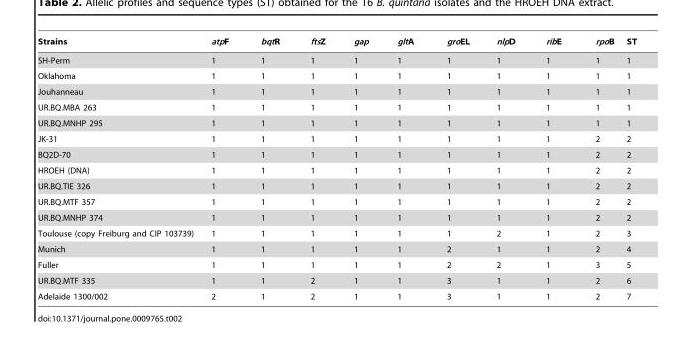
<table><thead><tr><td>Strains</td><td>atpF</td><td>bqtR</td><td>ftsZ</td><td>gap</td><td>gltA</td><td>groEL</td><td>nlpD</td><td>ribE</td><td>rpoB</td><td>ST</td></tr></thead><tbody><tr><td>SH-Perm</td><td>1</td><td>1</td><td>1</td><td>1</td><td>1</td><td>1</td><td>1</td><td>1</td><td>1</td><td>1</td></tr><tr><td>Oklahoma</td><td>1</td><td>1</td><td>1</td><td>1</td><td>1</td><td>1</td><td>1</td><td>1</td><td>1</td><td>1</td></tr><tr><td>Jouhanneau</td><td>1</td><td>1</td><td>1</td><td>1</td><td>1</td><td>1</td><td>1</td><td>1</td><td>1</td><td>1</td></tr><tr><td>UR.BQ.MBA 263</td><td>1</td><td>1</td><td>1</td><td>1</td><td>1</td><td>1</td><td>1</td><td>1</td><td>1</td><td>1</td></tr><tr><td>UR.BQ.MNHP 295</td><td>1</td><td>1</td><td>1</td><td>1</td><td>1</td><td>1</td><td>1</td><td>1</td><td>1</td><td>1</td></tr><tr><td>JK-31</td><td>1</td><td>1</td><td>1</td><td>1</td><td>1</td><td>1</td><td>1</td><td>1</td><td>2</td><td>2</td></tr><tr><td>BQ2D-70</td><td>1</td><td>1</td><td>1</td><td>1</td><td>1</td><td>1</td><td>1</td><td>1</td><td>2</td><td>2</td></tr><tr><td>HROEH (DNA)</td><td>1</td><td>1</td><td>1</td><td>1</td><td>1</td><td>1</td><td>1</td><td>1</td><td>2</td><td>2</td></tr><tr><td>UR.BQ.TIE 326</td><td>1</td><td>1</td><td>1</td><td>1</td><td>1</td><td>1</td><td>1</td><td>1</td><td>2</td><td>2</td></tr><tr><td>UR.BQ.MTF 357</td><td>1</td><td>1</td><td>1</td><td>1</td><td>1</td><td>1</td><td>1</td><td>1</td><td>2</td><td>2</td></tr><tr><td>UR.BQ.MNHP 374</td><td>1</td><td>1</td><td>1</td><td>1</td><td>1</td><td>1</td><td>1</td><td>1</td><td>2</td><td>2</td></tr><tr><td>Toulouse (copy Freiburg and CIP 103739)</td><td>1</td><td>1</td><td>1</td><td>1</td><td>1</td><td>1</td><td>2</td><td>1</td><td>2</td><td>3</td></tr><tr><td>Munich</td><td>1</td><td>1</td><td>1</td><td>1</td><td>1</td><td>2</td><td>1</td><td>1</td><td>2</td><td>4</td></tr><tr><td>Fuller</td><td>1</td><td>1</td><td>1</td><td>1</td><td>1</td><td>2</td><td>2</td><td>1</td><td>3</td><td>5</td></tr><tr><td>UR.BQ.MTF 335</td><td>1</td><td>1</td><td>2</td><td>1</td><td>1</td><td>3</td><td>1</td><td>1</td><td>2</td><td>6</td></tr><tr><td>Adelaide 1300/002</td><td>2</td><td>1</td><td>2</td><td>1</td><td>1</td><td>3</td><td>1</td><td>1</td><td>2</td><td>7</td></tr></tbody></table>